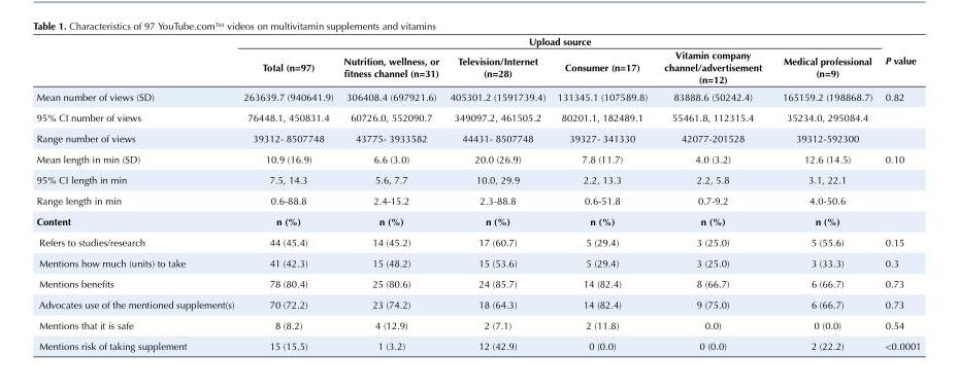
<table><thead><tr><td rowspan="2"></td><td colspan="6">Upload source</td><td rowspan="2">P value</td></tr><tr><td>Total (n=97)</td><td>Nutrition, wellness, or fitness channel (n=31)</td><td>Television/Internet (n=28)</td><td>Consumer (n=17)</td><td>Vitamin company channel/advertisement (n=12)</td><td>Medical professional (n=9)</td></tr></thead><tbody><tr><td>Mean number of views (SD)</td><td>263639.7 (940641.9)</td><td>306408.4 (697921.6)</td><td>405301.2 (1591739.4)</td><td>131345.1 (107589.8)</td><td>83888.6 (50242.4)</td><td>165159.2 (198868.7)</td><td>0.82</td></tr><tr><td>95% CI number of views</td><td>76448.1, 450831.4</td><td>60726.0, 552090.7</td><td>349097.2, 461505.2</td><td>80201.1, 182489.1</td><td>55461.8, 112315.4</td><td>35234.0, 295084.4</td><td></td></tr><tr><td>Range number of views</td><td>39312- 8507748</td><td>43775- 3933582</td><td>44431- 8507748</td><td>39327- 341330</td><td>42077-201528</td><td>39312-592300</td><td></td></tr><tr><td>Mean length in min (SD)</td><td>10.9 (16.9)</td><td>6.6 (3.0)</td><td>20.0 (26.9)</td><td>7.8 (11.7)</td><td>4.0 (3.2)</td><td>12.6 (14.5)</td><td>0.10</td></tr><tr><td>95% CI length in min</td><td>7.5, 14.3</td><td>5.6, 7.7</td><td>10.0, 29.9</td><td>2.2, 13.3</td><td>2.2, 5.8</td><td>3.1, 22.1</td><td></td></tr><tr><td>Range length in min</td><td>0.6-88.8</td><td>2.4-15.2</td><td>2.3-88.8</td><td>0.6-51.8</td><td>0.7-9.2</td><td>4.0-50.6</td><td></td></tr><tr><td>Content</td><td>n (%)</td><td>n (%)</td><td>n (%)</td><td>n (%)</td><td>n (%)</td><td>n (%)</td><td></td></tr><tr><td>Refers to studies/research</td><td>44 (45.4)</td><td>14 (45.2)</td><td>17 (60.7)</td><td>5 (29.4)</td><td>3 (25.0)</td><td>5 (55.6)</td><td>0.15</td></tr><tr><td>Mentions how much (units) to take</td><td>41 (42.3)</td><td>15 (48.2)</td><td>15 (53.6)</td><td>5 (29.4)</td><td>3 (25.0)</td><td>3 (33.3)</td><td>0.3</td></tr><tr><td>Mentions benefits</td><td>78 (80.4)</td><td>25 (80.6)</td><td>24 (85.7)</td><td>14 (82.4)</td><td>8 (66.7)</td><td>6 (66.7)</td><td>0.73</td></tr><tr><td>Advocates use of the mentioned supplement(s)</td><td>70 (72.2)</td><td>23 (74.2)</td><td>18 (64.3)</td><td>14 (82.4)</td><td>9 (75.0)</td><td>6 (66.7)</td><td>0.73</td></tr><tr><td>Mentions that it is safe</td><td>8 (8.2)</td><td>4 (12.9)</td><td>2 (7.1)</td><td>2 (11.8)</td><td>0.0)</td><td>0 (0.0)</td><td>0.54</td></tr><tr><td>Mentions risk of taking supplement</td><td>15 (15.5)</td><td>1 (3.2)</td><td>12 (42.9)</td><td>0 (0.0)</td><td>0 (0.0)</td><td>2 (22.2)</td><td>&lt;0.0001</td></tr></tbody></table>